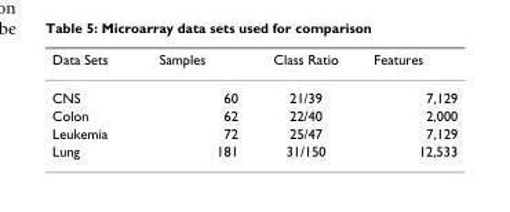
<table><thead><tr><td>Data Sets</td><td>Samples</td><td>Class Ratio</td><td>Features</td></tr></thead><tbody><tr><td>CNS</td><td>60</td><td>21/39</td><td>7,129</td></tr><tr><td>Colon</td><td>62</td><td>22/40</td><td>2,000</td></tr><tr><td>Leukemia</td><td>72</td><td>25/47</td><td>7,129</td></tr><tr><td>Lung</td><td>181</td><td>31/150</td><td>12,533</td></tr></tbody></table>